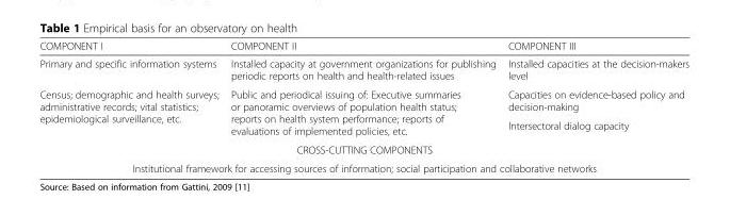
<table><thead><tr><td>COMPONENT I</td><td>COMPONENT II</td><td>COMPONENT III</td></tr></thead><tbody><tr><td>Primary and specific information systems</td><td>Installed capacity at government organizations for publishing periodic reports on health and health-related issues</td><td>Installed capacities at the decision-makers level</td></tr><tr><td rowspan="2">Census; demographic and health surveys; administrative records; vital statistics; epidemiological surveillance, etc.</td><td rowspan="2">Public and periodical issuing of: Executive summaries or panoramic overviews of population health status; reports on health system performance; reports of evaluations of implemented policies, etc.</td><td>Capacities on evidence-based policy and decision-making</td></tr><tr><td>Intersectoral dialog capacity</td></tr><tr><td colspan="3">CROSS-CUTTING COMPONENTS</td></tr><tr><td colspan="3">Institutional framework for accessing sources of information; social participation and collaborative networks</td></tr></tbody></table>